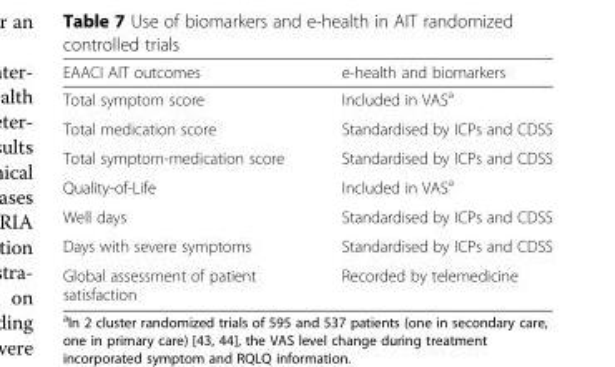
<table><thead><tr><td>EAACI AIT outcomes</td><td>e-health and biomarkers</td></tr></thead><tbody><tr><td>Total symptom score</td><td>Included in VAS<sup>a</sup></td></tr><tr><td>Total medication score</td><td>Standardised by ICPs and CDSS</td></tr><tr><td>Total symptom-medication score</td><td>Standardised by ICPs and CDSS</td></tr><tr><td>Quality-of-Life</td><td>Included in VAS<sup>a</sup></td></tr><tr><td>Well days</td><td>Standardised by ICPs and CDSS</td></tr><tr><td>Days with severe symptoms</td><td>Standardised by ICPs and CDSS</td></tr><tr><td>Global assessment of patient satisfaction</td><td>Recorded by telemedicine</td></tr></tbody></table>